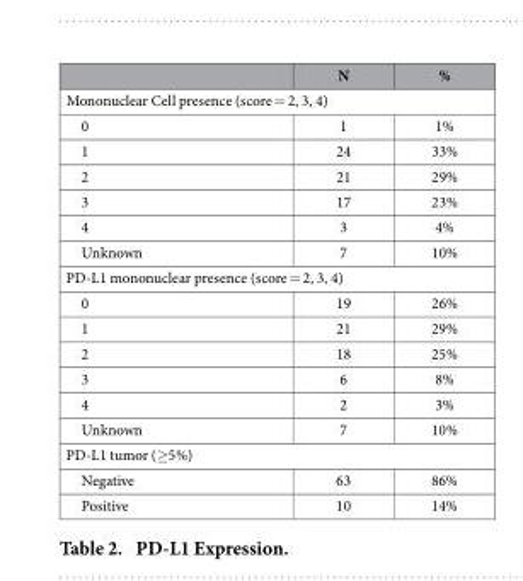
<table><thead><tr><td></td><td>N</td><td>%</td></tr></thead><tbody><tr><td colspan="3">Mononuclear Cell presence (score = 2, 3, 4)</td></tr><tr><td>0</td><td>1</td><td>1%</td></tr><tr><td>1</td><td>24</td><td>33%</td></tr><tr><td>2</td><td>21</td><td>29%</td></tr><tr><td>3</td><td>17</td><td>23%</td></tr><tr><td>4</td><td>3</td><td>4%</td></tr><tr><td>Unknown</td><td>7</td><td>10%</td></tr><tr><td colspan="3">PD-L1 mononuclear presence (score = 2, 3, 4)</td></tr><tr><td>0</td><td>19</td><td>26%</td></tr><tr><td>1</td><td>21</td><td>29%</td></tr><tr><td>2</td><td>18</td><td>25%</td></tr><tr><td>3</td><td>6</td><td>8%</td></tr><tr><td>4</td><td>2</td><td>3%</td></tr><tr><td>Unknown</td><td>7</td><td>10%</td></tr><tr><td colspan="3">PD-L1 tumor (≥5%)</td></tr><tr><td>Negative</td><td>63</td><td>86%</td></tr><tr><td>Positive</td><td>10</td><td>14%</td></tr></tbody></table>